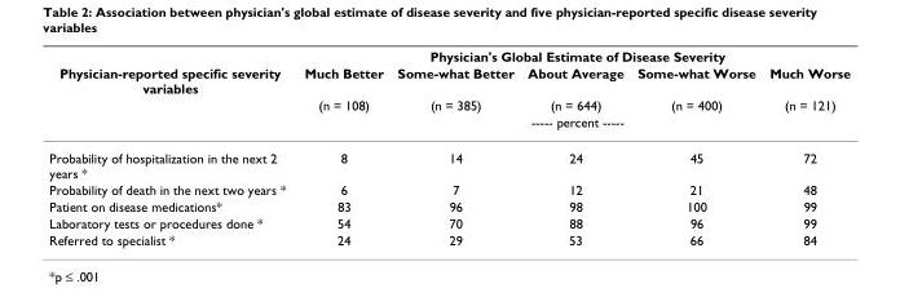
<table><thead><tr><td rowspan="4">Physician-reported specific severity variables</td><td colspan="5">Physician&#x27;s Global Estimate of Disease Severity</td></tr><tr><td rowspan="2">Much Better (n = 108)</td><td rowspan="2">Some-what Better (n = 385)</td><td rowspan="2">About Average (n = 644)</td><td rowspan="2">Some-what Worse (n = 400)</td><td rowspan="2">Much Worse (n = 121)</td></tr><tr></tr><tr><td colspan="5">----- percent -----</td></tr></thead><tbody><tr><td>Probability of hospitalization in the next 2 years *</td><td>8</td><td>14</td><td>24</td><td>45</td><td>72</td></tr><tr><td>Probability of death in the next two years *</td><td>6</td><td>7</td><td>12</td><td>21</td><td>48</td></tr><tr><td>Patient on disease medications*</td><td>83</td><td>96</td><td>98</td><td>100</td><td>99</td></tr><tr><td>Laboratory tests or procedures done *</td><td>54</td><td>70</td><td>88</td><td>96</td><td>99</td></tr><tr><td>Referred to specialist *</td><td>24</td><td>29</td><td>53</td><td>66</td><td>84</td></tr></tbody></table>